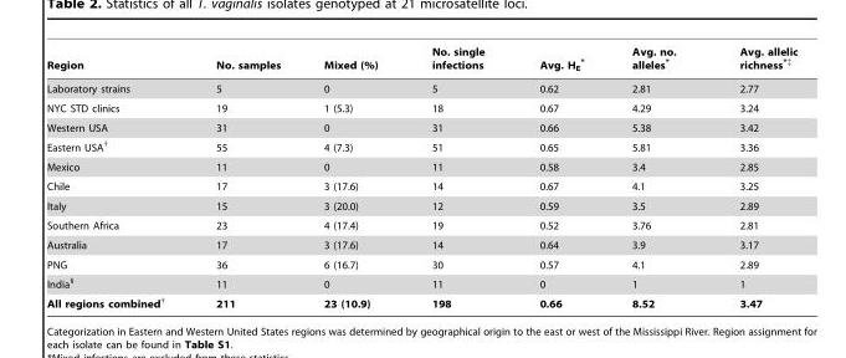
<table><thead><tr><td>Region</td><td>No. samples</td><td>Mixed (%)</td><td>No. single infections</td><td>Avg. H<sub>E</sub> *</td><td>Avg. no. alleles*</td><td>Avg. allelic richness*‡</td></tr></thead><tbody><tr><td>Laboratory strains</td><td>5</td><td>0</td><td>5</td><td>0.62</td><td>2.81</td><td>2.77</td></tr><tr><td>NYC STD clinics</td><td>19</td><td>1 (5.3)</td><td>18</td><td>0.67</td><td>4.29</td><td>3.24</td></tr><tr><td>Western USA</td><td>31</td><td>0</td><td>31</td><td>0.66</td><td>5.38</td><td>3.42</td></tr><tr><td>Eastern USA†</td><td>55</td><td>4 (7.3)</td><td>51</td><td>0.65</td><td>5.81</td><td>3.36</td></tr><tr><td>Mexico</td><td>11</td><td>0</td><td>11</td><td>0.58</td><td>3.4</td><td>2.85</td></tr><tr><td>Chile</td><td>17</td><td>3 (17.6)</td><td>14</td><td>0.67</td><td>4.1</td><td>3.25</td></tr><tr><td>Italy</td><td>15</td><td>3 (20.0)</td><td>12</td><td>0.59</td><td>3.5</td><td>2.89</td></tr><tr><td>Southern Africa</td><td>23</td><td>4 (17.4)</td><td>19</td><td>0.52</td><td>3.76</td><td>2.81</td></tr><tr><td>Australia</td><td>17</td><td>3 (17.6)</td><td>14</td><td>0.64</td><td>3.9</td><td>3.17</td></tr><tr><td>PNG</td><td>36</td><td>6 (16.7)</td><td>30</td><td>0.57</td><td>4.1</td><td>2.89</td></tr><tr><td>India§</td><td>11</td><td>0</td><td>11</td><td>0</td><td>1</td><td>1</td></tr><tr><td>All regions combined†</td><td>211</td><td>23 (10.9)</td><td>198</td><td>0.66</td><td>8.52</td><td>3.47</td></tr></tbody></table>